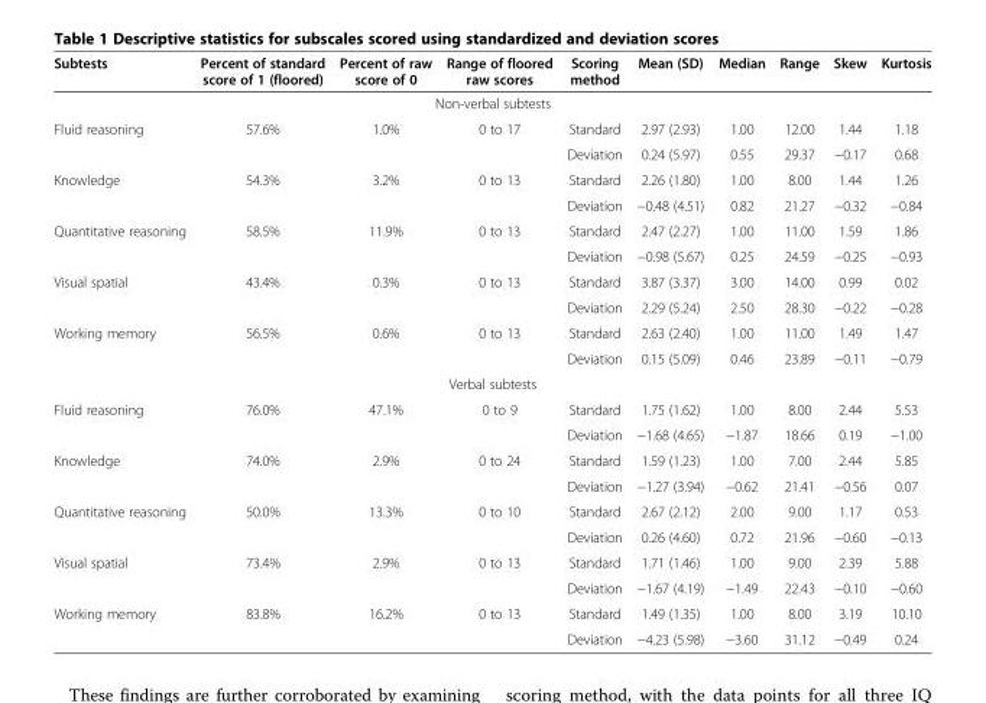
<table><thead><tr><td>Subtests</td><td>Percent of standard score of 1 (floored)</td><td>Percent of raw score of 0</td><td>Range of floored raw scores</td><td>Scoring method</td><td>Mean (SD)</td><td>Median</td><td>Range</td><td>Skew</td><td>Kurtosis</td></tr></thead><tbody><tr><td></td><td></td><td></td><td>Non-verbal subtests</td><td></td><td></td><td></td><td></td><td></td><td></td></tr><tr><td rowspan="2">Fluid reasoning</td><td>57.6%</td><td>1.0%</td><td>0 to 17</td><td>Standard</td><td>2.97 (2.93)</td><td>1.00</td><td>12.00</td><td>1.44</td><td>1.18</td></tr><tr><td></td><td></td><td></td><td>Deviation</td><td>0.24 (5.97)</td><td>0.55</td><td>29.37</td><td>−0.17</td><td>0.68</td></tr><tr><td rowspan="2">Knowledge</td><td>54.3%</td><td>3.2%</td><td>0 to 13</td><td>Standard</td><td>2.26 (1.80)</td><td>1.00</td><td>8.00</td><td>1.44</td><td>1.26</td></tr><tr><td></td><td></td><td></td><td>Deviation</td><td>−0.48 (4.51)</td><td>0.82</td><td>21.27</td><td>−0.32</td><td>−0.84</td></tr><tr><td rowspan="2">Quantitative reasoning</td><td>58.5%</td><td>11.9%</td><td>0 to 13</td><td>Standard</td><td>2.47 (2.27)</td><td>1.00</td><td>11.00</td><td>1.59</td><td>1.86</td></tr><tr><td></td><td></td><td></td><td>Deviation</td><td>−0.98 (5.67)</td><td>0.25</td><td>24.59</td><td>−0.25</td><td>−0.93</td></tr><tr><td rowspan="2">Visual spatial</td><td>43.4%</td><td>0.3%</td><td>0 to 13</td><td>Standard</td><td>3.87 (3.37)</td><td>3.00</td><td>14.00</td><td>0.99</td><td>0.02</td></tr><tr><td></td><td></td><td></td><td>Deviation</td><td>2.29 (5.24)</td><td>2.50</td><td>28.30</td><td>−0.22</td><td>−0.28</td></tr><tr><td rowspan="3">Working memory</td><td>56.5%</td><td>0.6%</td><td>0 to 13</td><td>Standard</td><td>2.63 (2.40)</td><td>1.00</td><td>11.00</td><td>1.49</td><td>1.47</td></tr><tr><td></td><td></td><td></td><td>Deviation</td><td>0.15 (5.09)</td><td>0.46</td><td>23.89</td><td>−0.11</td><td>−0.79</td></tr><tr><td></td><td></td><td>Verbal subtests</td><td></td><td></td><td></td><td></td><td></td><td></td></tr><tr><td rowspan="2">Fluid reasoning</td><td>76.0%</td><td>47.1%</td><td>0 to 9</td><td>Standard</td><td>1.75 (1.62)</td><td>1.00</td><td>8.00</td><td>2.44</td><td>5.53</td></tr><tr><td></td><td></td><td></td><td>Deviation</td><td>−1.68 (4.65)</td><td>−1.87</td><td>18.66</td><td>0.19</td><td>−1.00</td></tr><tr><td rowspan="2">Knowledge</td><td>74.0%</td><td>2.9%</td><td>0 to 24</td><td>Standard</td><td>1.59 (1.23)</td><td>1.00</td><td>7.00</td><td>2.44</td><td>5.85</td></tr><tr><td></td><td></td><td></td><td>Deviation</td><td>−1.27 (3.94)</td><td>−0.62</td><td>21.41</td><td>−0.56</td><td>0.07</td></tr><tr><td rowspan="2">Quantitative reasoning</td><td>50.0%</td><td>13.3%</td><td>0 to 10</td><td>Standard</td><td>2.67 (2.12)</td><td>2.00</td><td>9.00</td><td>1.17</td><td>0.53</td></tr><tr><td></td><td></td><td></td><td>Deviation</td><td>0.26 (4.60)</td><td>0.72</td><td>21.96</td><td>−0.60</td><td>−0.13</td></tr><tr><td rowspan="2">Visual spatial</td><td>73.4%</td><td>2.9%</td><td>0 to 13</td><td>Standard</td><td>1.71 (1.46)</td><td>1.00</td><td>9.00</td><td>2.39</td><td>5.88</td></tr><tr><td></td><td></td><td></td><td>Deviation</td><td>−1.67 (4.19)</td><td>−1.49</td><td>22.43</td><td>−0.10</td><td>−0.60</td></tr><tr><td rowspan="2">Working memory</td><td>83.8%</td><td>16.2%</td><td>0 to 13</td><td>Standard</td><td>1.49 (1.35)</td><td>1.00</td><td>8.00</td><td>3.19</td><td>10.10</td></tr><tr><td></td><td></td><td></td><td>Deviation</td><td>−4.23 (5.98)</td><td>−3.60</td><td>31.12</td><td>−0.49</td><td>0.24</td></tr></tbody></table>